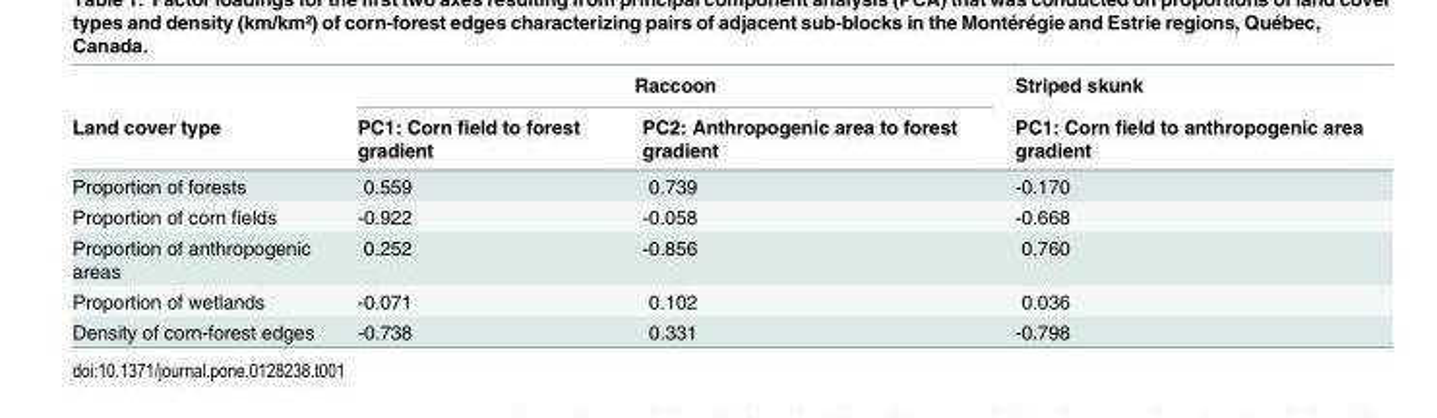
<table><thead><tr><td rowspan="2">Land cover type</td><td colspan="2">Raccoon</td><td rowspan="2">Striped skunk PC1: Corn field to anthropogenic area gradient</td></tr><tr><td>PC1: Corn field to forest gradient</td><td>PC2: Anthropogenic area to forest gradient</td></tr></thead><tbody><tr><td>Proportion of forests</td><td>0.559</td><td>0.739</td><td>-0.170</td></tr><tr><td>Proportion of corn fields</td><td>-0.922</td><td>-0.058</td><td>-0.668</td></tr><tr><td>Proportion of anthropogenic areas</td><td>0.252</td><td>-0.856</td><td>0.760</td></tr><tr><td>Proportion of wetlands</td><td>-0.071</td><td>0.102</td><td>0.036</td></tr><tr><td>Density of corn-forest edges</td><td>-0.738</td><td>0.331</td><td>-0.798</td></tr></tbody></table>